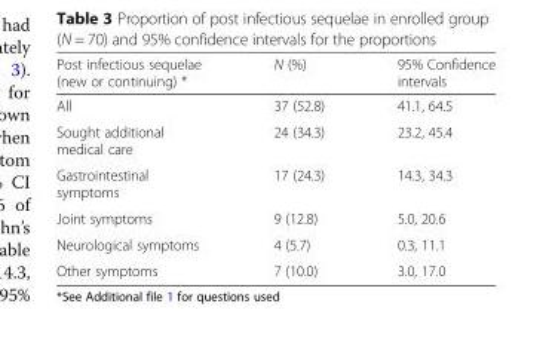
<table><thead><tr><td>Post infectious sequelae (new or continuing) *</td><td>N (%)</td><td>95% Confidence intervals</td></tr></thead><tbody><tr><td>All</td><td>37 (52.8)</td><td>41.1, 64.5</td></tr><tr><td>Sought additional medical care</td><td>24 (34.3)</td><td>23.2, 45.4</td></tr><tr><td>Gastrointestinal symptoms</td><td>17 (24.3)</td><td>14.3, 34.3</td></tr><tr><td>Joint symptoms</td><td>9 (12.8)</td><td>5.0, 20.6</td></tr><tr><td>Neurological symptoms</td><td>4 (5.7)</td><td>0.3, 11.1</td></tr><tr><td>Other symptoms</td><td>7 (10.0)</td><td>3.0, 17.0</td></tr></tbody></table>